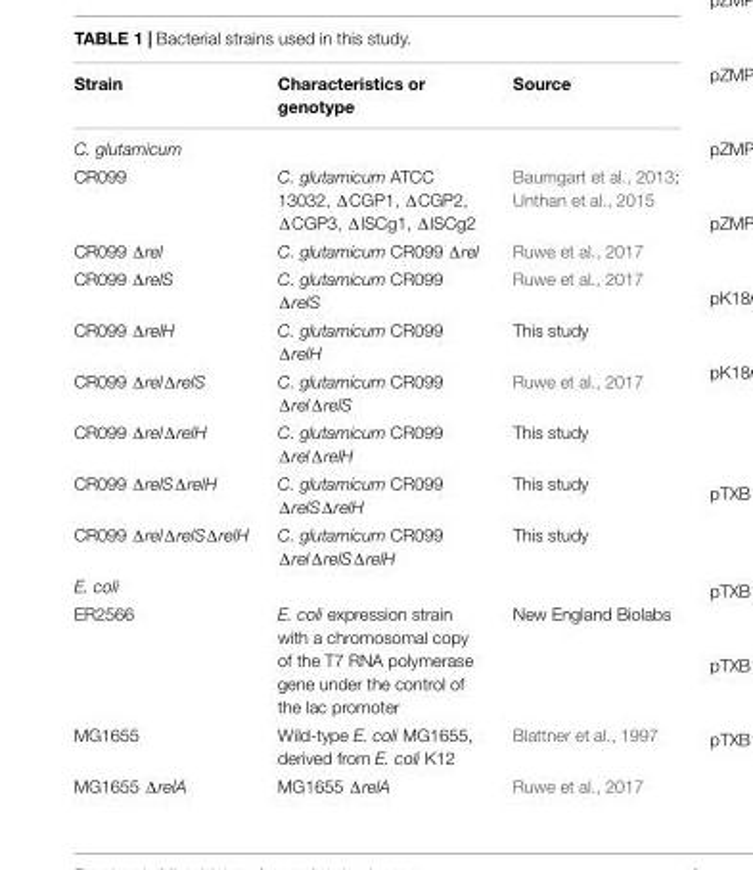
<table><thead><tr><td>Strain</td><td>Characteristics or genotype</td><td>Source</td></tr></thead><tbody><tr><td colspan="3">C. glutamicum</td></tr><tr><td>CR099</td><td>C. glutamicum ATCC 13032, ΔCGP1, ΔCGP2, ΔCGP3, ΔISCg1, ΔISCg2</td><td>Baumgart et al., 2013; Unthan et al., 2015</td></tr><tr><td>CR099 Δrel</td><td>C. glutamicum CR099 Δrel</td><td>Ruwe et al., 2017</td></tr><tr><td>CR099 ΔrelS</td><td>C. glutamicum CR099 ΔrelS</td><td>Ruwe et al., 2017</td></tr><tr><td>CR099 ΔrelH</td><td>C. glutamicum CR099 ΔrelH</td><td>This study</td></tr><tr><td>CR099 ΔrelΔrelS</td><td>C. glutamicum CR099 ΔrelΔrelS</td><td>Ruwe et al., 2017</td></tr><tr><td>CR099 ΔrelΔrelH</td><td>C. glutamicum CR099 ΔrelΔrelH</td><td>This study</td></tr><tr><td>CR099 ΔrelSΔrelH</td><td>C. glutamicum CR099 ΔrelSΔrelH</td><td>This study</td></tr><tr><td>CR099 ΔrelΔrelSΔrelH</td><td>C. glutamicum CR099 ΔrelΔrelSΔrelH</td><td>This study</td></tr><tr><td colspan="3">E. coli</td></tr><tr><td>ER2566</td><td>E. coli expression strain with a chromosomal copy of the T7 RNA polymerase gene under the control of the lac promoter</td><td>New England Biolabs</td></tr><tr><td>MG1655</td><td>Wild-type E. coli MG1655, derived from E. coli K12</td><td>Blattner et al., 1997</td></tr><tr><td>MG1655 ΔrelA</td><td>MG1655 ΔrelA</td><td>Ruwe et al., 2017</td></tr></tbody></table>